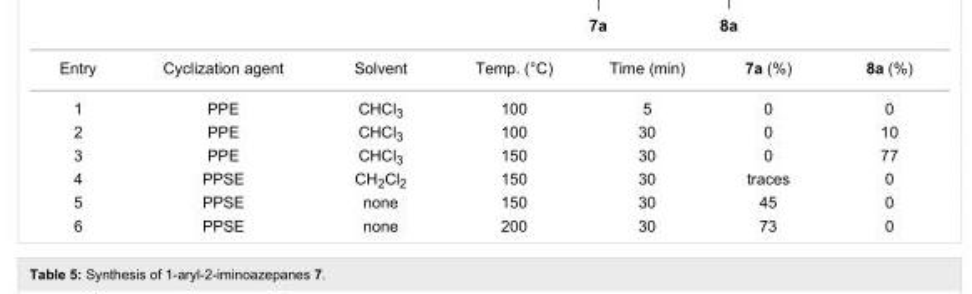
<table><tbody><tr><td>Entry</td><td>Cyclization agent</td><td>Solvent</td><td>Temp. (°C)</td><td>Time (min)</td><td>7a (%)</td><td>8a (%)</td></tr><tr><td>1</td><td>PPE</td><td>CHCl<sub>3</sub></td><td>100</td><td>5</td><td>0</td><td>0</td></tr><tr><td>2</td><td>PPE</td><td>CHCl<sub>3</sub></td><td>100</td><td>30</td><td>0</td><td>10</td></tr><tr><td>3</td><td>PPE</td><td>CHCl<sub>3</sub></td><td>150</td><td>30</td><td>0</td><td>77</td></tr><tr><td>4</td><td>PPSE</td><td>CH<sub>2</sub>Cl<sub>2</sub></td><td>150</td><td>30</td><td>traces</td><td>0</td></tr><tr><td>5</td><td>PPSE</td><td>none</td><td>150</td><td>30</td><td>45</td><td>0</td></tr><tr><td>6</td><td>PPSE</td><td>none</td><td>200</td><td>30</td><td>73</td><td>0</td></tr></tbody></table>